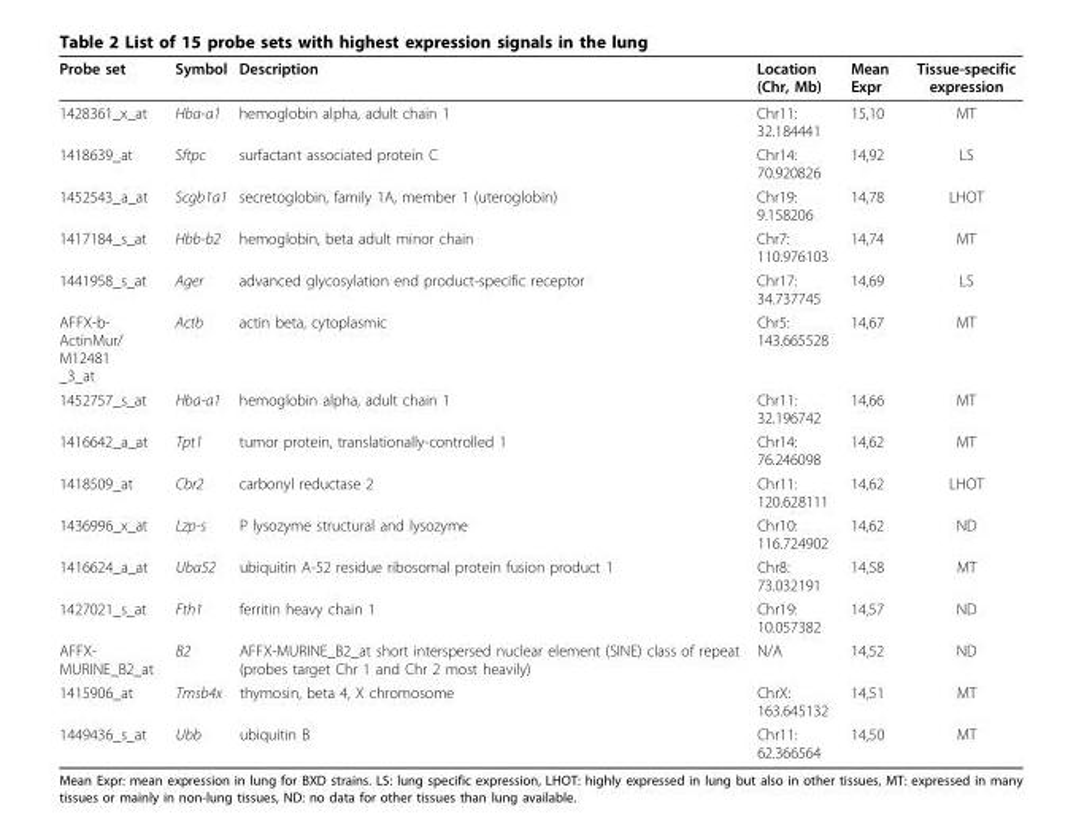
<table><thead><tr><td>Probe set</td><td>Symbol</td><td>Description</td><td>Location (Chr, Mb)</td><td>Mean Expr</td><td>Tissue-specific expression</td></tr></thead><tbody><tr><td>1428361_x_at</td><td>Hba-a1</td><td>hemoglobin alpha, adult chain 1</td><td>Chr11: 32.184441</td><td>15,10</td><td>MT</td></tr><tr><td>1418639_at</td><td>Sftpc</td><td>surfactant associated protein C</td><td>Chr14: 70.920826</td><td>14,92</td><td>LS</td></tr><tr><td>1452543_a_at</td><td>Scgb1a1</td><td>secretoglobin, family 1A, member 1 (uteroglobin)</td><td>Chr19: 9.158206</td><td>14,78</td><td>LHOT</td></tr><tr><td>1417184_s_at</td><td>Hbb-b2</td><td>hemoglobin, beta adult minor chain</td><td>Chr7: 110.976103</td><td>14,74</td><td>MT</td></tr><tr><td>1441958_s_at</td><td>Ager</td><td>advanced glycosylation end product-specific receptor</td><td>Chr17: 34.737745</td><td>14,69</td><td>LS</td></tr><tr><td>AFFX-b- ActinMur/ M12481 _3_at</td><td>Actb</td><td>actin beta, cytoplasmic</td><td>Chr5: 143.665528</td><td>14,67</td><td>MT</td></tr><tr><td>1452757_s_at</td><td>Hba-a1</td><td>hemoglobin alpha, adult chain 1</td><td>Chr11: 32.196742</td><td>14,66</td><td>MT</td></tr><tr><td>1416642_a_at</td><td>Tpt1</td><td>tumor protein, translationally-controlled 1</td><td>Chr14: 76.246098</td><td>14,62</td><td>MT</td></tr><tr><td>1418509_at</td><td>Cbr2</td><td>carbonyl reductase 2</td><td>Chr11: 120.628111</td><td>14,62</td><td>LHOT</td></tr><tr><td>1436996_x_at</td><td>Lzp-s</td><td>P lysozyme structural and lysozyme</td><td>Chr10: 116.724902</td><td>14,62</td><td>ND</td></tr><tr><td>1416624_a_at</td><td>Uba52</td><td>ubiquitin A-52 residue ribosomal protein fusion product 1</td><td>Chr8: 73.032191</td><td>14,58</td><td>MT</td></tr><tr><td>1427021_s_at</td><td>Fth1</td><td>ferritin heavy chain 1</td><td>Chr19: 10.057382</td><td>14,57</td><td>ND</td></tr><tr><td>AFFX- MURINE_B2_at</td><td>B2</td><td>AFFX-MURINE_B2_at short interspersed nuclear element (SINE) class of repeat (probes target Chr 1 and Chr 2 most heavily)</td><td>N/A</td><td>14,52</td><td>ND</td></tr><tr><td>1415906_at</td><td>Tmsb4x</td><td>thymosin, beta 4, X chromosome</td><td>ChrX: 163.645132</td><td>14,51</td><td>MT</td></tr><tr><td>1449436_s_at</td><td>Ubb</td><td>ubiquitin B</td><td>Chr11: 62.366564</td><td>14,50</td><td>MT</td></tr></tbody></table>